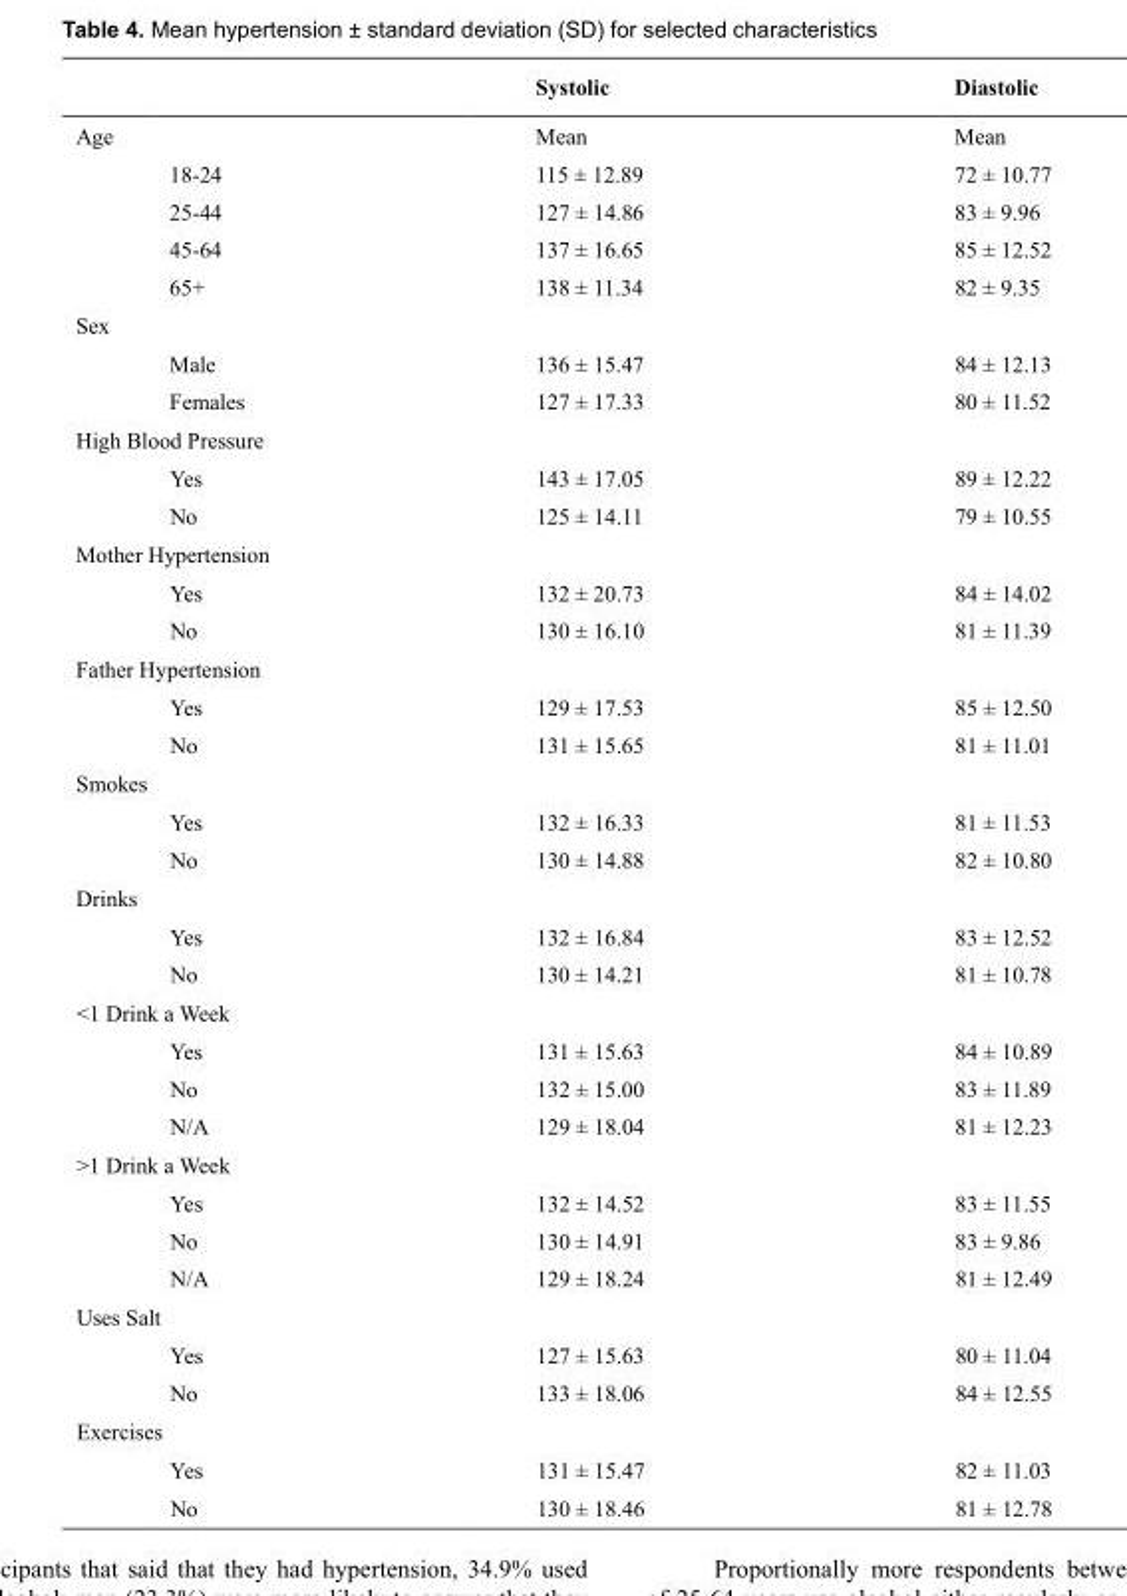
<table><thead><tr><td></td><td>Systolic</td><td>Diastolic</td></tr></thead><tbody><tr><td>Age</td><td>Mean</td><td>Mean</td></tr><tr><td>18-24</td><td>115 ± 12.89</td><td>72 ± 10.77</td></tr><tr><td>25-44</td><td>127 ± 14.86</td><td>83 ± 9.96</td></tr><tr><td>45-64</td><td>137 ± 16.65</td><td>85 ± 12.52</td></tr><tr><td>65+</td><td>138 ± 11.34</td><td>82 ± 9.35</td></tr><tr><td colspan="3">Sex</td></tr><tr><td>Male</td><td>136 ± 15.47</td><td>84 ± 12.13</td></tr><tr><td>Females</td><td>127 ± 17.33</td><td>80 ± 11.52</td></tr><tr><td colspan="3">High Blood Pressure</td></tr><tr><td>Yes</td><td>143 ± 17.05</td><td>89 ± 12.22</td></tr><tr><td>No</td><td>125 ± 14.11</td><td>79 ± 10.55</td></tr><tr><td colspan="3">Mother Hypertension</td></tr><tr><td>Yes</td><td>132 ± 20.73</td><td>84 ± 14.02</td></tr><tr><td>No</td><td>130 ± 16.10</td><td>81 ± 11.39</td></tr><tr><td colspan="3">Father Hypertension</td></tr><tr><td>Yes</td><td>129 ± 17.53</td><td>85 ± 12.50</td></tr><tr><td>No</td><td>131 ± 15.65</td><td>81 ± 11.01</td></tr><tr><td colspan="3">Smokes</td></tr><tr><td>Yes</td><td>132 ± 16.33</td><td>81 ± 11.53</td></tr><tr><td>No</td><td>130 ± 14.88</td><td>82 ± 10.80</td></tr><tr><td colspan="3">Drinks</td></tr><tr><td>Yes</td><td>132 ± 16.84</td><td>83 ± 12.52</td></tr><tr><td>No</td><td>130 ± 14.21</td><td>81 ± 10.78</td></tr><tr><td colspan="3">&lt;1 Drink a Week</td></tr><tr><td>Yes</td><td>131 ± 15.63</td><td>84 ± 10.89</td></tr><tr><td>No</td><td>132 ± 15.00</td><td>83 ± 11.89</td></tr><tr><td>N/A</td><td>129 ± 18.04</td><td>81 ± 12.23</td></tr><tr><td colspan="3">&gt;1 Drink a Week</td></tr><tr><td>Yes</td><td>132 ± 14.52</td><td>83 ± 11.55</td></tr><tr><td>No</td><td>130 ± 14.91</td><td>83 ± 9.86</td></tr><tr><td>N/A</td><td>129 ± 18.24</td><td>81 ± 12.49</td></tr><tr><td colspan="3">Uses Salt</td></tr><tr><td>Yes</td><td>127 ± 15.63</td><td>80 ± 11.04</td></tr><tr><td>No</td><td>133 ± 18.06</td><td>84 ± 12.55</td></tr><tr><td colspan="3">Exercises</td></tr><tr><td>Yes</td><td>131 ± 15.47</td><td>82 ± 11.03</td></tr><tr><td>No</td><td>130 ± 18.46</td><td>81 ± 12.78</td></tr></tbody></table>